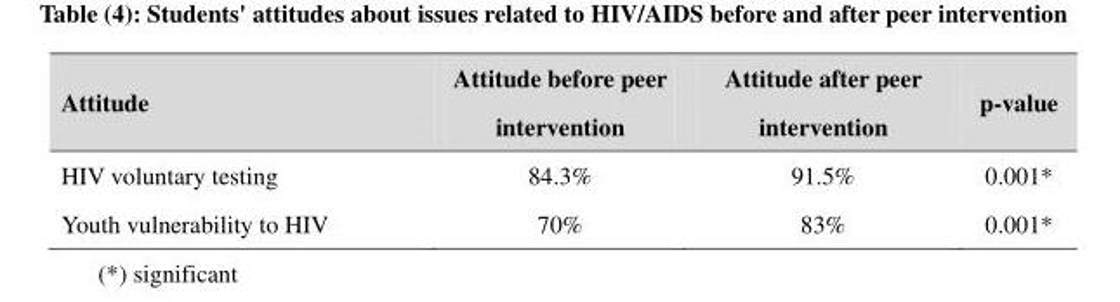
<table><thead><tr><td>Attitude</td><td>Attitude before peer intervention</td><td>Attitude after peer intervention</td><td>p-value</td></tr></thead><tbody><tr><td>HIV voluntary testing</td><td>84.3%</td><td>91.5%</td><td>0.001*</td></tr><tr><td>Youth vulnerability to HIV</td><td>70%</td><td>83%</td><td>0.001*</td></tr></tbody></table>